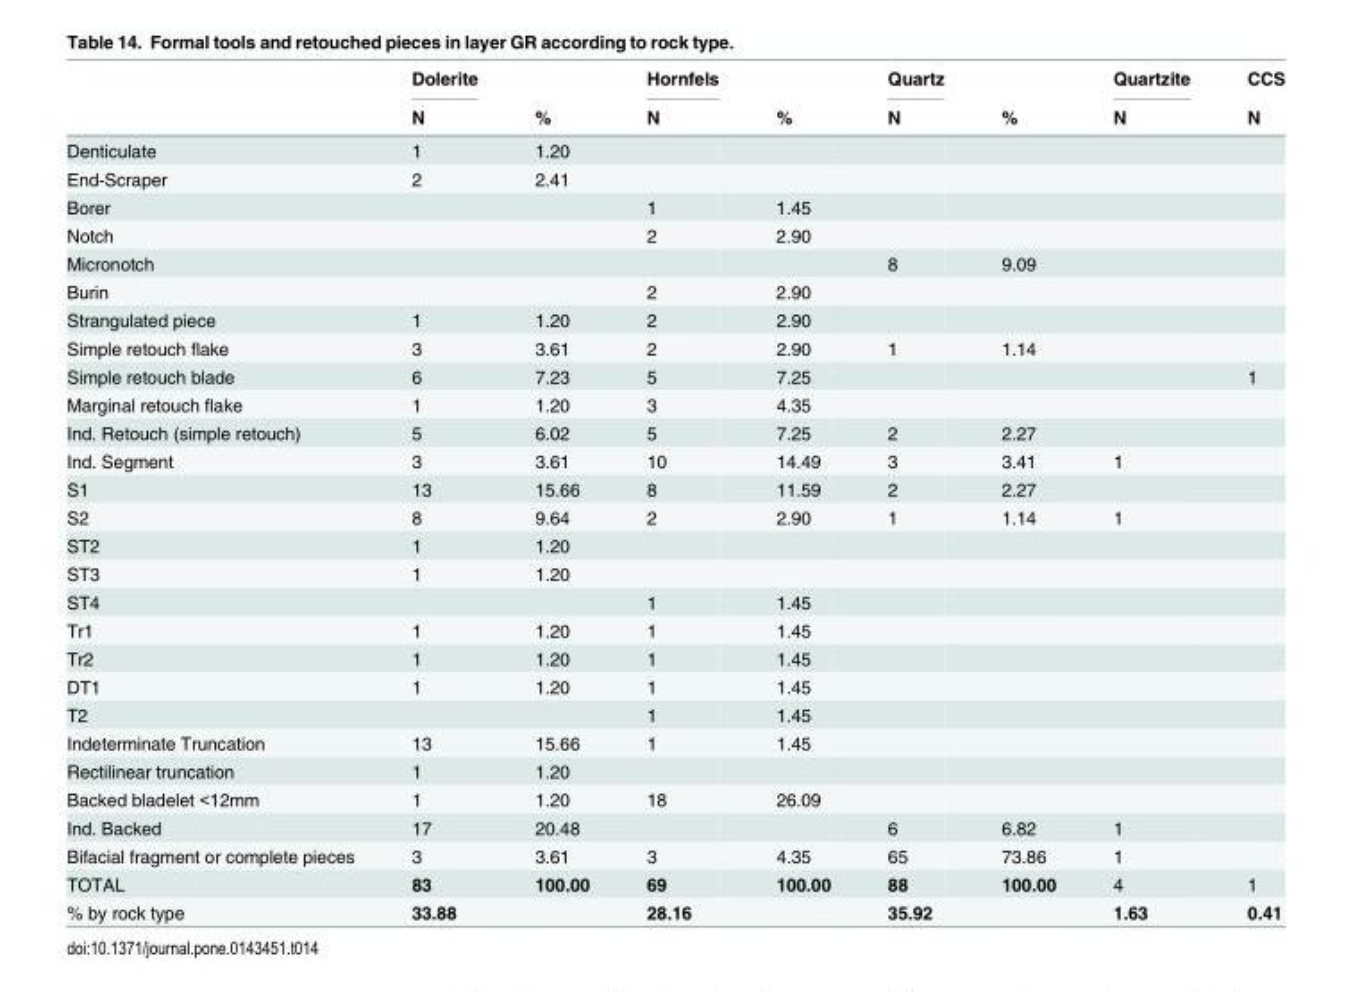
<table><thead><tr><td rowspan="2"></td><td rowspan="2">Dolerite N</td><td rowspan="2">%</td><td rowspan="2">Hornfels N</td><td rowspan="2">%</td><td rowspan="2">Quartz N</td><td rowspan="2">%</td><td rowspan="2">Quartzite N</td><td rowspan="2">CCS N</td></tr><tr></tr></thead><tbody><tr><td>Denticulate</td><td>1</td><td>1.20</td><td></td><td></td><td></td><td></td><td></td><td></td></tr><tr><td>End-Scraper</td><td>2</td><td>2.41</td><td></td><td></td><td></td><td></td><td></td><td></td></tr><tr><td>Borer</td><td></td><td></td><td>1</td><td>1.45</td><td></td><td></td><td></td><td></td></tr><tr><td>Notch</td><td></td><td></td><td>2</td><td>2.90</td><td></td><td></td><td></td><td></td></tr><tr><td>Micronotch</td><td></td><td></td><td></td><td></td><td>8</td><td>9.09</td><td></td><td></td></tr><tr><td>Burin</td><td></td><td></td><td>2</td><td>2.90</td><td></td><td></td><td></td><td></td></tr><tr><td>Strangulated piece</td><td>1</td><td>1.20</td><td>2</td><td>2.90</td><td></td><td></td><td></td><td></td></tr><tr><td>Simple retouch flake</td><td>3</td><td>3.61</td><td>2</td><td>2.90</td><td>1</td><td>1.14</td><td></td><td></td></tr><tr><td>Simple retouch blade</td><td>6</td><td>7.23</td><td>5</td><td>7.25</td><td></td><td></td><td></td><td>1</td></tr><tr><td>Marginal retouch flake</td><td>1</td><td>1.20</td><td>3</td><td>4.35</td><td></td><td></td><td></td><td></td></tr><tr><td>Ind. Retouch (simple retouch)</td><td>5</td><td>6.02</td><td>5</td><td>7.25</td><td>2</td><td>2.27</td><td></td><td></td></tr><tr><td>Ind. Segment</td><td>3</td><td>3.61</td><td>10</td><td>14.49</td><td>3</td><td>3.41</td><td>1</td><td></td></tr><tr><td>S1</td><td>13</td><td>15.66</td><td>8</td><td>11.59</td><td>2</td><td>2.27</td><td></td><td></td></tr><tr><td>S2</td><td>8</td><td>9.64</td><td>2</td><td>2.90</td><td>1</td><td>1.14</td><td>1</td><td></td></tr><tr><td>ST2</td><td>1</td><td>1.20</td><td></td><td></td><td></td><td></td><td></td><td></td></tr><tr><td>ST3</td><td>1</td><td>1.20</td><td></td><td></td><td></td><td></td><td></td><td></td></tr><tr><td>ST4</td><td></td><td></td><td>1</td><td>1.45</td><td></td><td></td><td></td><td></td></tr><tr><td>Tr1</td><td>1</td><td>1.20</td><td>1</td><td>1.45</td><td></td><td></td><td></td><td></td></tr><tr><td>Tr2</td><td>1</td><td>1.20</td><td>1</td><td>1.45</td><td></td><td></td><td></td><td></td></tr><tr><td>DT1</td><td>1</td><td>1.20</td><td>1</td><td>1.45</td><td></td><td></td><td></td><td></td></tr><tr><td>T2</td><td></td><td></td><td>1</td><td>1.45</td><td></td><td></td><td></td><td></td></tr><tr><td>Indeterminate Truncation</td><td>13</td><td>15.66</td><td>1</td><td>1.45</td><td></td><td></td><td></td><td></td></tr><tr><td>Rectilinear truncation</td><td>1</td><td>1.20</td><td></td><td></td><td></td><td></td><td></td><td></td></tr><tr><td>Backed bladelet &lt;12mm</td><td>1</td><td>1.20</td><td>18</td><td>26.09</td><td></td><td></td><td></td><td></td></tr><tr><td>Ind. Backed</td><td>17</td><td>20.48</td><td></td><td></td><td>6</td><td>6.82</td><td>1</td><td></td></tr><tr><td>Bifacial fragment or complete pieces</td><td>3</td><td>3.61</td><td>3</td><td>4.35</td><td>65</td><td>73.86</td><td>1</td><td></td></tr><tr><td>TOTAL</td><td>83</td><td>100.00</td><td>69</td><td>100.00</td><td>88</td><td>100.00</td><td>4</td><td>1</td></tr><tr><td>% by rock type</td><td>33.88</td><td></td><td>28.16</td><td></td><td>35.92</td><td></td><td>1.63</td><td>0.41</td></tr></tbody></table>